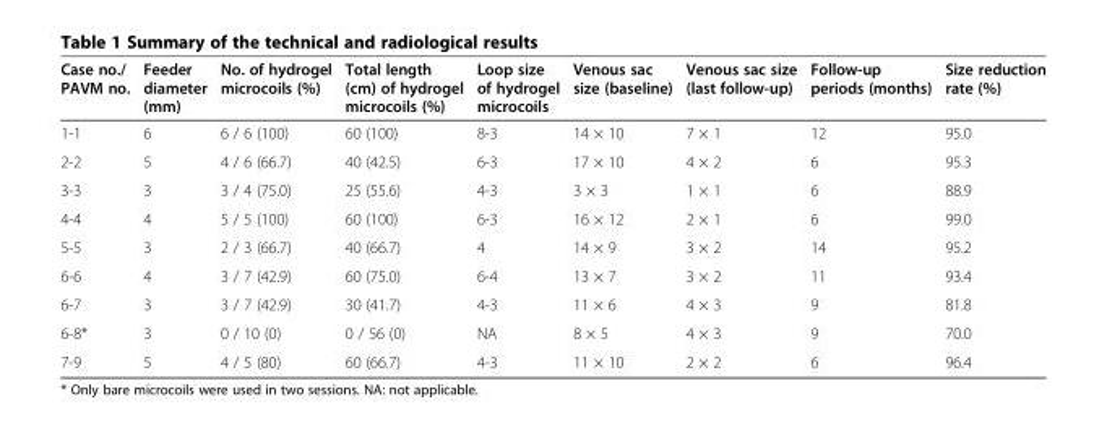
<table><thead><tr><td>Case no./ PAVM no.</td><td>Feeder diameter (mm)</td><td>No. of hydrogel microcoils (%)</td><td>Total length (cm) of hydrogel microcoils (%)</td><td>Loop size of hydrogel microcoils</td><td>Venous sac size (baseline)</td><td>Venous sac size (last follow-up)</td><td>Follow-up periods (months)</td><td>Size reduction rate (%)</td></tr></thead><tbody><tr><td>1-1</td><td>6</td><td>6 / 6 (100)</td><td>60 (100)</td><td>8-3</td><td>14 × 10</td><td>7 × 1</td><td>12</td><td>95.0</td></tr><tr><td>2-2</td><td>5</td><td>4 / 6 (66.7)</td><td>40 (42.5)</td><td>6-3</td><td>17 × 10</td><td>4 × 2</td><td>6</td><td>95.3</td></tr><tr><td>3-3</td><td>3</td><td>3 / 4 (75.0)</td><td>25 (55.6)</td><td>4-3</td><td>3 × 3</td><td>1 × 1</td><td>6</td><td>88.9</td></tr><tr><td>4-4</td><td>4</td><td>5 / 5 (100)</td><td>60 (100)</td><td>6-3</td><td>16 × 12</td><td>2 × 1</td><td>6</td><td>99.0</td></tr><tr><td>5-5</td><td>3</td><td>2 / 3 (66.7)</td><td>40 (66.7)</td><td>4</td><td>14 × 9</td><td>3 × 2</td><td>14</td><td>95.2</td></tr><tr><td>6-6</td><td>4</td><td>3 / 7 (42.9)</td><td>60 (75.0)</td><td>6-4</td><td>13 × 7</td><td>3 × 2</td><td>11</td><td>93.4</td></tr><tr><td>6-7</td><td>3</td><td>3 / 7 (42.9)</td><td>30 (41.7)</td><td>4-3</td><td>11 × 6</td><td>4 × 3</td><td>9</td><td>81.8</td></tr><tr><td>6-8*</td><td>3</td><td>0 / 10 (0)</td><td>0 / 56 (0)</td><td>NA</td><td>8 × 5</td><td>4 × 3</td><td>9</td><td>70.0</td></tr><tr><td>7-9</td><td>5</td><td>4 / 5 (80)</td><td>60 (66.7)</td><td>4-3</td><td>11 × 10</td><td>2 × 2</td><td>6</td><td>96.4</td></tr></tbody></table>